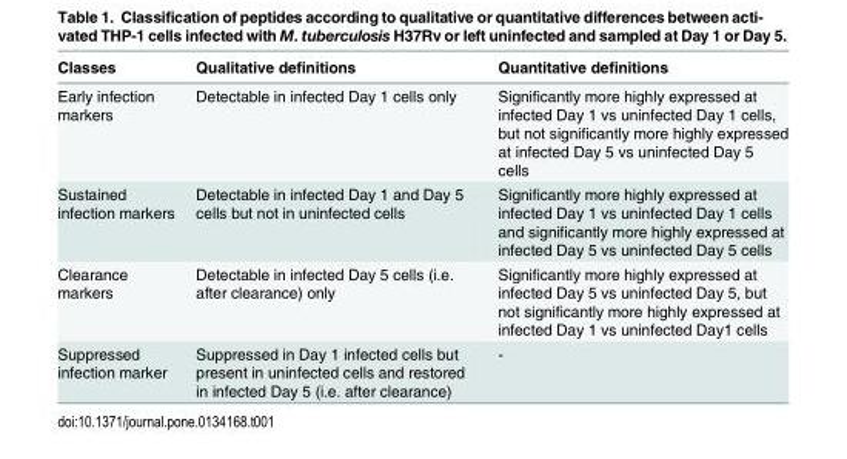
<table><thead><tr><td>Classes</td><td>Qualitative definitions</td><td>Quantitative definitions</td></tr></thead><tbody><tr><td>Early infection markers</td><td>Detectable in infected Day 1 cells only</td><td>Significantly more highly expressed at infected Day 1 vs uninfected Day 1 cells, but not significantly more highly expressed at infected Day 5 vs uninfected Day 5 cells</td></tr><tr><td>Sustained infection markers</td><td>Detectable in infected Day 1 and Day 5 cells but not in uninfected cells</td><td>Significantly more highly expressed at infected Day 1 vs uninfected Day 1 cells and significantly more highly expressed at infected Day 5 vs uninfected Day 5 cells</td></tr><tr><td>Clearance markers</td><td>Detectable in infected Day 5 cells (i.e. after clearance) only</td><td>Significantly more highly expressed at infected Day 5 vs uninfected Day 5, but not significantly more highly expressed at infected Day 1 vs uninfected Day1 cells</td></tr><tr><td>Suppressed infection marker</td><td>Suppressed in Day 1 infected cells but present in uninfected cells and restored in infected Day 5 (i.e. after clearance)</td><td>-</td></tr></tbody></table>